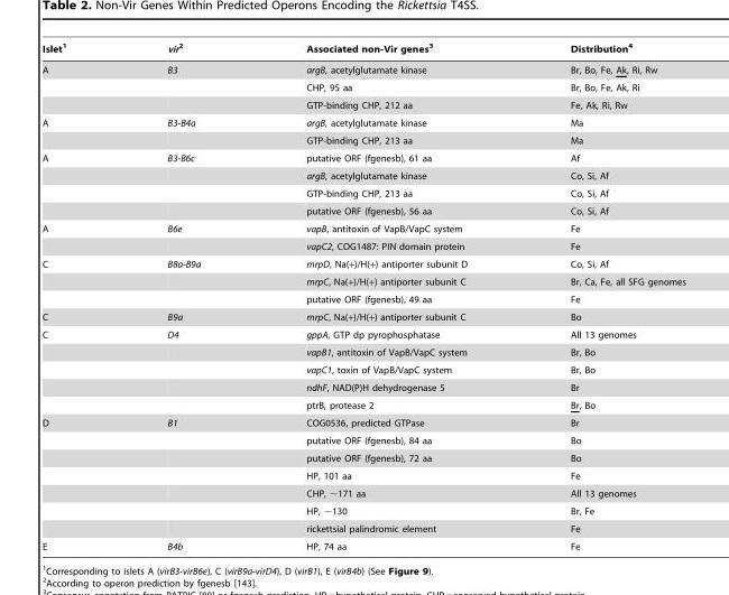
<table><thead><tr><td>Islet<sup>1</sup></td><td>vir2</td><td>Associated non-Vir genes<sup>3</sup></td><td>Distribution<sup>4</sup></td></tr></thead><tbody><tr><td rowspan="3">A</td><td>B3</td><td>argB, acetylglutamate kinase</td><td>Br, Bo, Fe, Ak, Ri, Rw</td></tr><tr><td></td><td>CHP, 95 aa</td><td>Br, Bo, Fe, Ak, Ri</td></tr><tr><td></td><td>GTP-binding CHP, 212 aa</td><td>Fe, Ak, Ri, Rw</td></tr><tr><td rowspan="2">A</td><td>B3-B4a</td><td>argB, acetylglutamate kinase</td><td>Ma</td></tr><tr><td></td><td>GTP-binding CHP, 213 aa</td><td>Ma</td></tr><tr><td rowspan="4">A</td><td>B3-B6c</td><td>putative ORF (fgenesb), 61 aa</td><td>Af</td></tr><tr><td></td><td>argB, acetylglutamate kinase</td><td>Co, Si, Af</td></tr><tr><td></td><td>GTP-binding CHP, 213 aa</td><td>Co, Si, Af</td></tr><tr><td></td><td>putative ORF (fgenesb), 56 aa</td><td>Co, Si, Af</td></tr><tr><td rowspan="2">A</td><td>B6e</td><td>vapB, antitoxin of VapB/VapC system</td><td>Fe</td></tr><tr><td></td><td>vapC2, COG1487: PIN domain protein</td><td>Fe</td></tr><tr><td rowspan="3">C</td><td>B8a-B9a</td><td>mrpD, Na(+)/H(+) antiporter subunit D</td><td>Co, Si, Af</td></tr><tr><td></td><td>mrpC, Na(+)/H(+) antiporter subunit C</td><td>Br, Ca, Fe, all SFG genomes</td></tr><tr><td></td><td>putative ORF (fgenesb), 49 aa</td><td>Fe</td></tr><tr><td>C</td><td>B9a</td><td>mrpC, Na(+)/H(+) antiporter subunit C</td><td>Bo</td></tr><tr><td rowspan="5">C</td><td>D4</td><td>gppA, GTP dp pyrophosphatase</td><td>All 13 genomes</td></tr><tr><td></td><td>vapB1, antitoxin of VapB/VapC system</td><td>Br, Bo</td></tr><tr><td></td><td>vapC1, toxin of VapB/VapC system</td><td>Br, Bo</td></tr><tr><td></td><td>ndhF, NAD(P)H dehydrogenase 5</td><td>Br</td></tr><tr><td></td><td>ptrB, protease 2</td><td>Br, Bo</td></tr><tr><td rowspan="7">D</td><td>B1</td><td>COG0536, predicted GTPase</td><td>Br</td></tr><tr><td></td><td>putative ORF (fgenesb), 84 aa</td><td>Bo</td></tr><tr><td></td><td>putative ORF (fgenesb), 72 aa</td><td>Bo</td></tr><tr><td></td><td>HP, 101 aa</td><td>Fe</td></tr><tr><td></td><td>CHP, ∼171 aa</td><td>All 13 genomes</td></tr><tr><td></td><td>HP, ∼130</td><td>Br, Fe</td></tr><tr><td></td><td>rickettsial palindromic element</td><td>Fe</td></tr><tr><td>E</td><td>B4b</td><td>HP, 74 aa</td><td>Fe</td></tr></tbody></table>